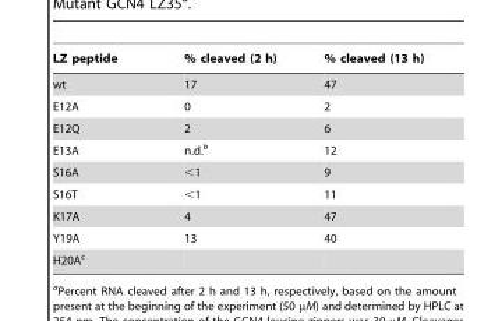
<table><thead><tr><td>LZ peptide</td><td>% cleaved (2 h)</td><td>% cleaved (13 h)</td></tr></thead><tbody><tr><td>wt</td><td>17</td><td>47</td></tr><tr><td>E12A</td><td>0</td><td>2</td></tr><tr><td>E12Q</td><td>2</td><td>6</td></tr><tr><td>E13A</td><td>n.d.<sup>b</sup></td><td>12</td></tr><tr><td>S16A</td><td>&lt;1</td><td>9</td></tr><tr><td>S16T</td><td>&lt;1</td><td>11</td></tr><tr><td>K17A</td><td>4</td><td>47</td></tr><tr><td>Y19A</td><td>13</td><td>40</td></tr><tr><td>H20A<sup>c</sup></td><td></td><td></td></tr></tbody></table>